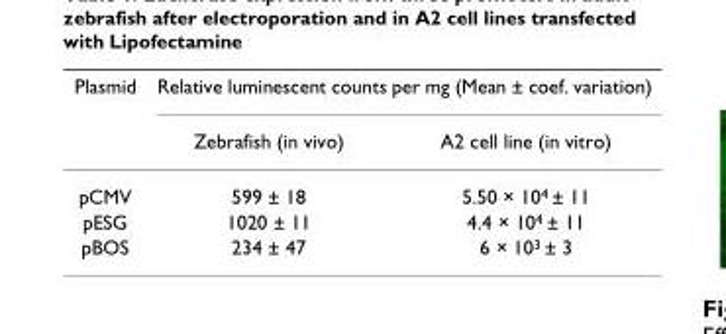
<table><thead><tr><td rowspan="2">Plasmid</td><td colspan="2">Relative luminescent counts per mg (Mean ± coef. variation)</td></tr><tr><td>Zebrafish (in vivo)</td><td>A2 cell line (in vitro)</td></tr></thead><tbody><tr><td>pCMV</td><td>599 ± 18</td><td>5.50 × 104 ± 11</td></tr><tr><td>pESG</td><td>1020 ± 11</td><td>4.4 × 104 ± 11</td></tr><tr><td>pBOS</td><td>234 ± 47</td><td>6 × 103 ± 3</td></tr></tbody></table>